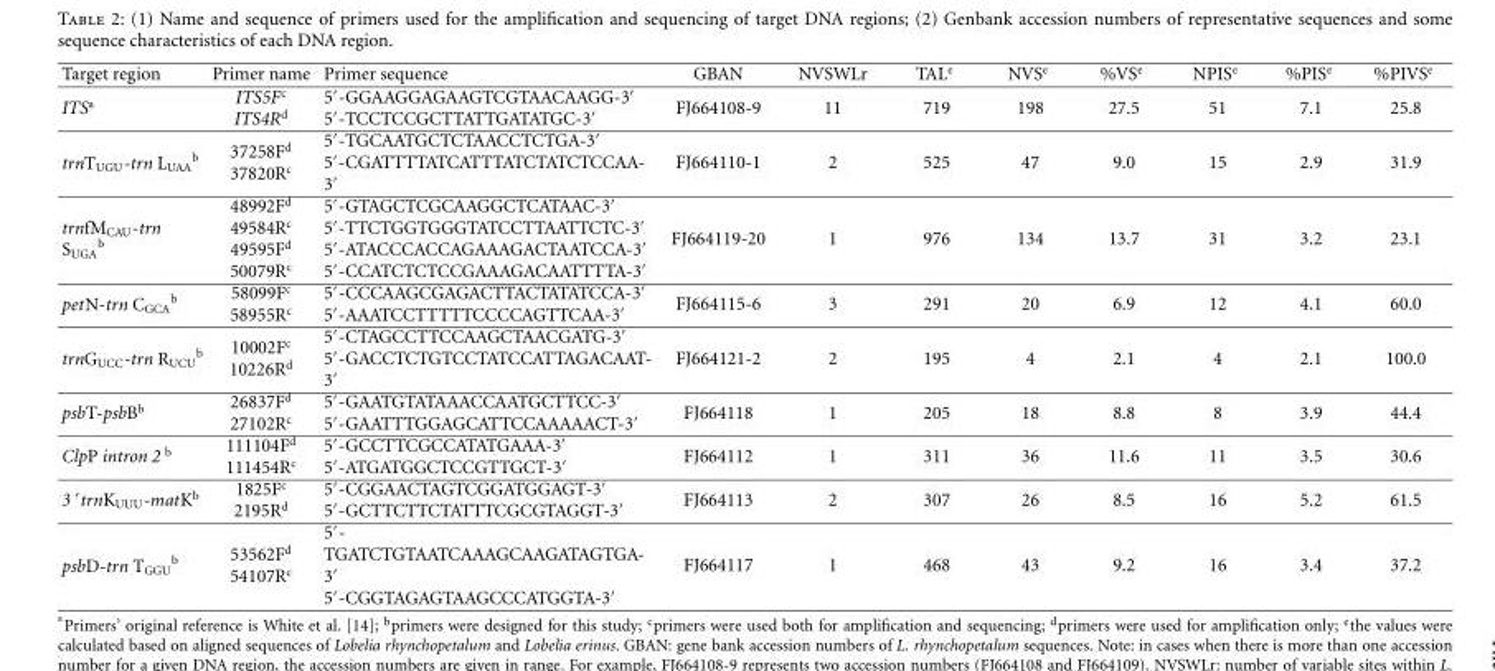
<table><thead><tr><td>Target region</td><td>Primer name</td><td>Primer sequence</td><td>GBAN</td><td>NVSWLr</td><td>TAL<sup>e</sup></td><td>NVS<sup>e</sup></td><td>%VS<sup>e</sup></td><td>NPIS<sup>e</sup></td><td>%PIS<sup>e</sup></td><td>%PIVS<sup>e</sup></td></tr></thead><tbody><tr><td>ITS<sup>a</sup></td><td>ITS5F<sup>c</sup> ITS4R<sup>d</sup></td><td>5′-GGAAGGAGAAGTCGTAACAAGG-3′ 5′-TCCTCCGCTTATTGATATGC-3′</td><td>FJ664108-9</td><td>11</td><td>719</td><td>198</td><td>27.5</td><td>51</td><td>7.1</td><td>25.8</td></tr><tr><td>trnT<sub>UGU</sub>-trn L<sub>UAA</sub> <sup>b</sup></td><td>37258F<sup>d</sup> 37820R<sup>c</sup></td><td>5′-TGCAATGCTCTAACCTCTGA-3′ 5′-CGATTTTATCATTTATCTATCTCCAA- 3′</td><td>FJ664110-1</td><td>2</td><td>525</td><td>47</td><td>9.0</td><td>15</td><td>2.9</td><td>31.9</td></tr><tr><td>trnfM<sub>CAU</sub>-trn S<sub>UGA</sub> <sup>b</sup></td><td>48992F<sup>d</sup> 49584R<sup>c</sup> 49595F<sup>d</sup> 50079R<sup>c</sup></td><td>5′-GTAGCTCGCAAGGCTCATAAC-3′ 5′-TTCTGGTGGGTATCCTTAATTCTC-3′ 5′-ATACCCACCAGAAAGACTAATCCA-3′ 5′-CCATCTCTCCGAAAGACAATTTTA-3′</td><td>FJ664119-20</td><td>1</td><td>976</td><td>134</td><td>13.7</td><td>31</td><td>3.2</td><td>23.1</td></tr><tr><td>petN-trn C<sub>GCA</sub> <sup>b</sup></td><td>58099F<sup>c</sup> 58955R<sup>c</sup></td><td>5′-CCCAAGCGAGACTTACTATATCCA-3′ 5′-AAATCCTTTTTCCCCAGTTCAA-3′</td><td>FJ664115-6</td><td>3</td><td>291</td><td>20</td><td>6.9</td><td>12</td><td>4.1</td><td>60.0</td></tr><tr><td>trnG<sub>UCC</sub>-trn R<sub>UCU</sub> <sup>b</sup></td><td>10002F<sup>c</sup> 10226R<sup>d</sup></td><td>5′-CTAGCCTTCCAAGCTAACGATG-3′ 5′-GACCTCTGTCCTATCCATTAGACAAT- 3′</td><td>FJ664121-2</td><td>2</td><td>195</td><td>4</td><td>2.1</td><td>4</td><td>2.1</td><td>100.0</td></tr><tr><td>psbT-psbB<sup>b</sup></td><td>26837F<sup>d</sup> 27102R<sup>c</sup></td><td>5′-GAATGTATAAACCAATGCTTCC-3′ 5′-GAATTTGGAGCATTCCAAAAACT-3′</td><td>FJ664118</td><td>1</td><td>205</td><td>18</td><td>8.8</td><td>8</td><td>3.9</td><td>44.4</td></tr><tr><td>ClpP intron 2 <sup>b</sup></td><td>111104F<sup>d</sup> 111454R<sup>c</sup></td><td>5′-GCCTTCGCCATATGAAA-3′ 5′-ATGATGGCTCCGTTGCT-3′</td><td>FJ664112</td><td>1</td><td>311</td><td>36</td><td>11.6</td><td>11</td><td>3.5</td><td>30.6</td></tr><tr><td>3 ′trnK<sub>UUU</sub>-matK<sup>b</sup></td><td>1825F<sup>c</sup> 2195R<sup>d</sup></td><td>5′-CGGAACTAGTCGGATGGAGT-3′ 5′-GCTTCTTCTATTTCGCGTAGGT-3′</td><td>FJ664113</td><td>2</td><td>307</td><td>26</td><td>8.5</td><td>16</td><td>5.2</td><td>61.5</td></tr><tr><td>psbD-trn T<sub>GGU</sub> <sup>b</sup></td><td>53562F<sup>d</sup> 54107R<sup>c</sup></td><td>5′- TGATCTGTAATCAAAGCAAGATAGTGA- 3′ 5′-CGGTAGAGTAAGCCCATGGTA-3′</td><td>FJ664117</td><td>1</td><td>468</td><td>43</td><td>9.2</td><td>16</td><td>3.4</td><td>37.2</td></tr></tbody></table>